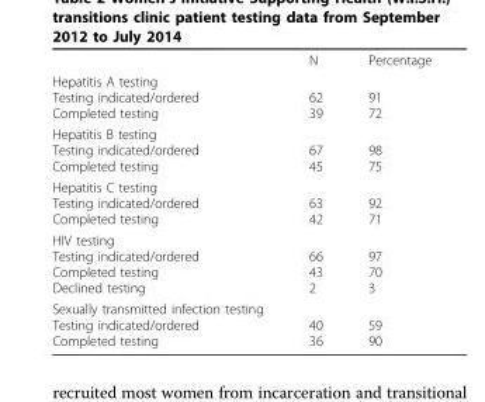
<table><thead><tr><td></td><td>N</td><td>Percentage</td></tr></thead><tbody><tr><td>Hepatitis A testing Testing indicated/ordered Completed testing</td><td>62 39</td><td>91 72</td></tr><tr><td>Hepatitis B testing Testing indicated/ordered Completed testing</td><td>67 45</td><td>98 75</td></tr><tr><td>Hepatitis C testing Testing indicated/ordered Completed testing</td><td>63 42</td><td>92 71</td></tr><tr><td>HIV testing Testing indicated/ordered Completed testing Declined testing</td><td>66 43 2</td><td>97 70 3</td></tr><tr><td>Sexually transmitted infection testing Testing indicated/ordered Completed testing</td><td>40 36</td><td>59 90</td></tr></tbody></table>